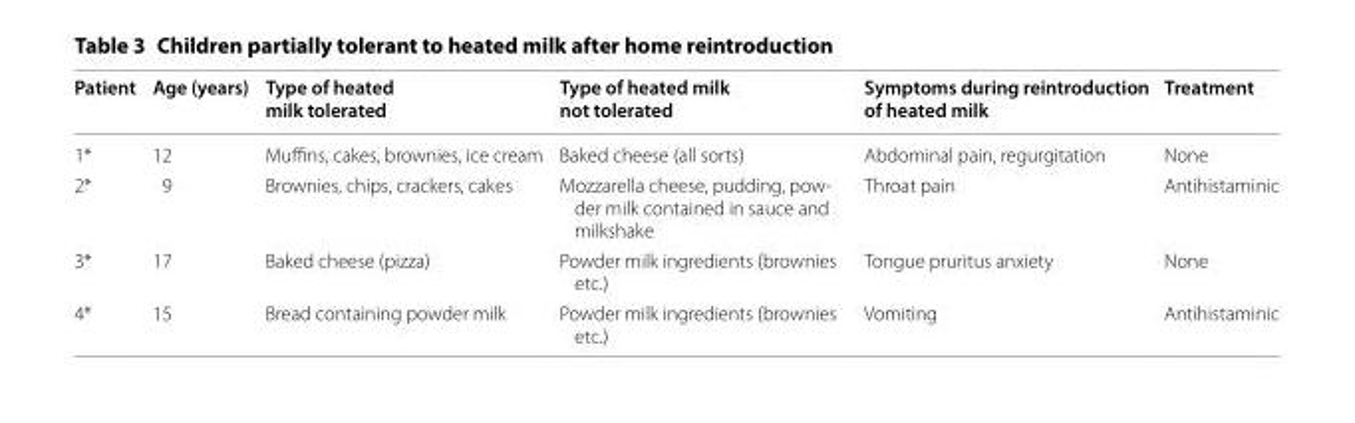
<table><thead><tr><td>Patient</td><td>Age (years)</td><td>Type of heated milk tolerated</td><td>Type of heated milk not tolerated</td><td>Symptoms during reintroduction of heated milk</td><td>Treatment</td></tr></thead><tbody><tr><td>1*</td><td>12</td><td>Muffins, cakes, brownies, ice cream</td><td>Baked cheese (all sorts)</td><td>Abdominal pain, regurgitation</td><td>None</td></tr><tr><td>2*</td><td>9</td><td>Brownies, chips, crackers, cakes</td><td>Mozzarella cheese, pudding, pow- der milk contained in sauce and milkshake</td><td>Throat pain</td><td>Antihistaminic</td></tr><tr><td>3*</td><td>17</td><td>Baked cheese (pizza)</td><td>Powder milk ingredients (brownies etc.)</td><td>Tongue pruritus anxiety</td><td>None</td></tr><tr><td>4*</td><td>15</td><td>Bread containing powder milk</td><td>Powder milk ingredients (brownies etc.)</td><td>Vomiting</td><td>Antihistaminic</td></tr></tbody></table>